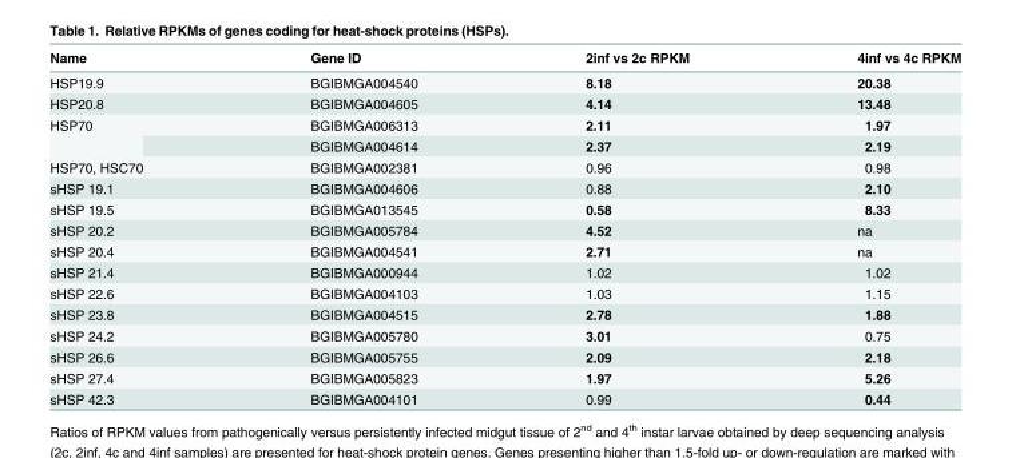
<table><thead><tr><td>Name</td><td>Gene ID</td><td>2inf vs 2c RPKM</td><td>4inf vs 4c RPKM</td></tr></thead><tbody><tr><td>HSP19.9</td><td>BGIBMGA004540</td><td>8.18</td><td>20.38</td></tr><tr><td>HSP20.8</td><td>BGIBMGA004605</td><td>4.14</td><td>13.48</td></tr><tr><td rowspan="2">HSP70</td><td>BGIBMGA006313</td><td>2.11</td><td>1.97</td></tr><tr><td>BGIBMGA004614</td><td>2.37</td><td>2.19</td></tr><tr><td>HSP70, HSC70</td><td>BGIBMGA002381</td><td>0.96</td><td>0.98</td></tr><tr><td>sHSP 19.1</td><td>BGIBMGA004606</td><td>0.88</td><td>2.10</td></tr><tr><td>sHSP 19.5</td><td>BGIBMGA013545</td><td>0.58</td><td>8.33</td></tr><tr><td>sHSP 20.2</td><td>BGIBMGA005784</td><td>4.52</td><td>na</td></tr><tr><td>sHSP 20.4</td><td>BGIBMGA004541</td><td>2.71</td><td>na</td></tr><tr><td>sHSP 21.4</td><td>BGIBMGA000944</td><td>1.02</td><td>1.02</td></tr><tr><td>sHSP 22.6</td><td>BGIBMGA004103</td><td>1.03</td><td>1.15</td></tr><tr><td>sHSP 23.8</td><td>BGIBMGA004515</td><td>2.78</td><td>1.88</td></tr><tr><td>sHSP 24.2</td><td>BGIBMGA005780</td><td>3.01</td><td>0.75</td></tr><tr><td>sHSP 26.6</td><td>BGIBMGA005755</td><td>2.09</td><td>2.18</td></tr><tr><td>sHSP 27.4</td><td>BGIBMGA005823</td><td>1.97</td><td>5.26</td></tr><tr><td>sHSP 42.3</td><td>BGIBMGA004101</td><td>0.99</td><td>0.44</td></tr></tbody></table>